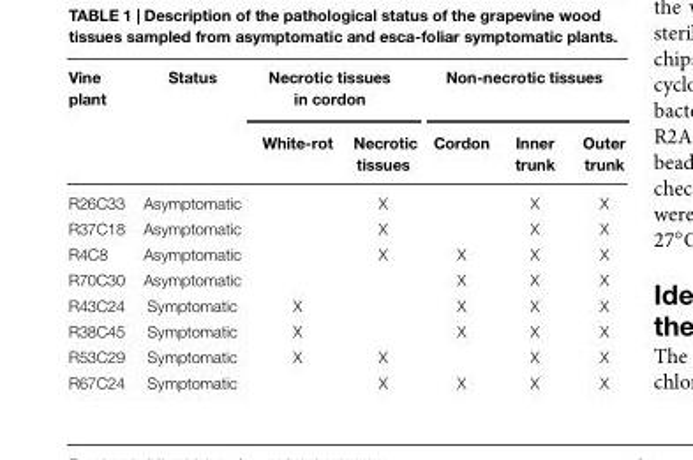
<table><thead><tr><td rowspan="2">Vine plant</td><td rowspan="2">Status</td><td colspan="2">Necrotic tissues in cordon</td><td colspan="3">Non-necrotic tissues</td></tr><tr><td>White-rot</td><td>Necrotic tissues</td><td>Cordon</td><td>Inner trunk</td><td>Outer trunk</td></tr></thead><tbody><tr><td>R26C33</td><td>Asymptomatic</td><td></td><td>X</td><td></td><td>X</td><td>X</td></tr><tr><td>R37C18</td><td>Asymptomatic</td><td></td><td>X</td><td></td><td>X</td><td>X</td></tr><tr><td>R4C8</td><td>Asymptomatic</td><td></td><td>X</td><td>X</td><td>X</td><td>X</td></tr><tr><td>R70C30</td><td>Asymptomatic</td><td></td><td></td><td>X</td><td>X</td><td>X</td></tr><tr><td>R43C24</td><td>Symptomatic</td><td>X</td><td></td><td>X</td><td>X</td><td>X</td></tr><tr><td>R38C45</td><td>Symptomatic</td><td>X</td><td></td><td>X</td><td>X</td><td>X</td></tr><tr><td>R53C29</td><td>Symptomatic</td><td>X</td><td>X</td><td></td><td>X</td><td>X</td></tr><tr><td>R67C24</td><td>Symptomatic</td><td></td><td>X</td><td>X</td><td>X</td><td>X</td></tr></tbody></table>